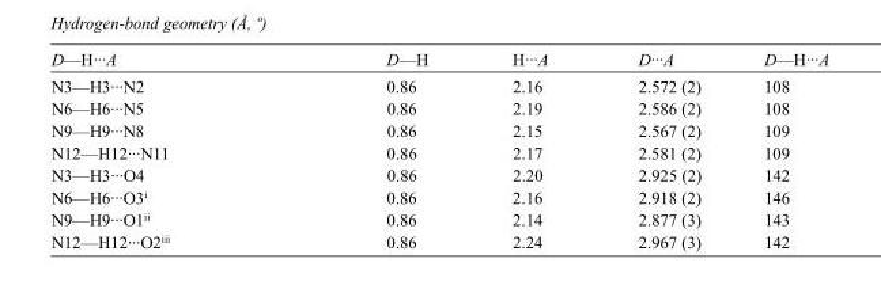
<table><tbody><tr><td>D—H···A</td><td>D—H</td><td>H···A</td><td>D···A</td><td>D—H···A</td></tr><tr><td>N3—H3···N2</td><td>0.86</td><td>2.16</td><td>2.572 (2)</td><td>108</td></tr><tr><td>N6—H6···N5</td><td>0.86</td><td>2.19</td><td>2.586 (2)</td><td>108</td></tr><tr><td>N9—H9···N8</td><td>0.86</td><td>2.15</td><td>2.567 (2)</td><td>109</td></tr><tr><td>N12—H12···N11</td><td>0.86</td><td>2.17</td><td>2.581 (2)</td><td>109</td></tr><tr><td>N3—H3···O4</td><td>0.86</td><td>2.20</td><td>2.925 (2)</td><td>142</td></tr><tr><td>N6—H6···O3<sup>i</sup></td><td>0.86</td><td>2.16</td><td>2.918 (2)</td><td>146</td></tr><tr><td>N9—H9···O1<sup>ii</sup></td><td>0.86</td><td>2.14</td><td>2.877 (3)</td><td>143</td></tr><tr><td>N12—H12···O2<sup>iii</sup></td><td>0.86</td><td>2.24</td><td>2.967 (3)</td><td>142</td></tr></tbody></table>